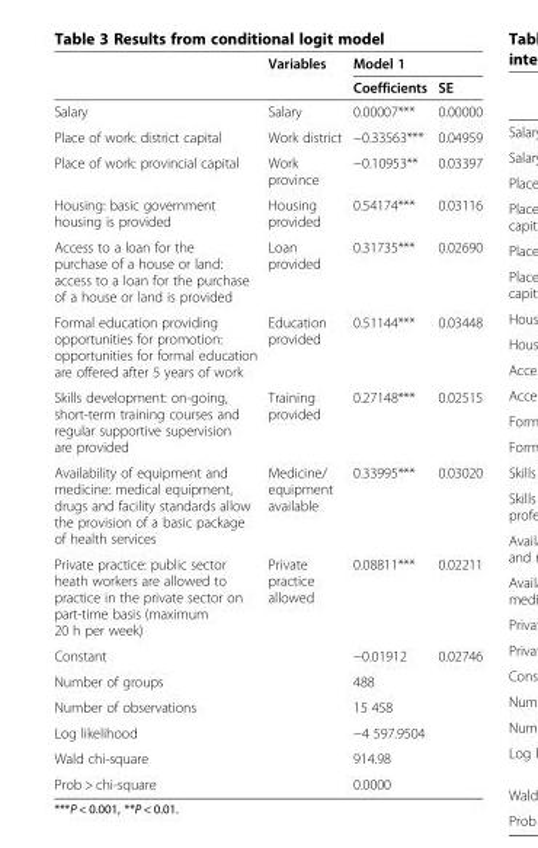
<table><thead><tr><td rowspan="2"></td><td rowspan="2">Variables</td><td colspan="2">Model 1</td></tr><tr><td>Coefficients</td><td>SE</td></tr></thead><tbody><tr><td>Salary</td><td>Salary</td><td>0.00007***</td><td>0.00000</td></tr><tr><td>Place of work: district capital</td><td>Work district</td><td>−0.33563***</td><td>0.04959</td></tr><tr><td>Place of work: provincial capital</td><td>Work province</td><td>−0.10953**</td><td>0.03397</td></tr><tr><td>Housing: basic government housing is provided</td><td>Housing provided</td><td>0.54174***</td><td>0.03116</td></tr><tr><td>Access to a loan for the purchase of a house or land: access to a loan for the purchase of a house or land is provided</td><td>Loan provided</td><td>0.31735***</td><td>0.02690</td></tr><tr><td>Formal education providing opportunities for promotion: opportunities for formal education are offered after 5 years of work</td><td>Education provided</td><td>0.51144***</td><td>0.03448</td></tr><tr><td>Skills development: on-going, short-term training courses and regular supportive supervision are provided</td><td>Training provided</td><td>0.27148***</td><td>0.02515</td></tr><tr><td>Availability of equipment and medicine: medical equipment, drugs and facility standards allow the provision of a basic package of health services</td><td>Medicine/ equipment available</td><td>0.33995***</td><td>0.03020</td></tr><tr><td>Private practice: public sector heath workers are allowed to practice in the private sector on part-time basis (maximum 20 h per week)</td><td>Private practice allowed</td><td>0.08811***</td><td>0.02211</td></tr><tr><td>Constant</td><td></td><td>−0.01912</td><td>0.02746</td></tr><tr><td>Number of groups</td><td></td><td>488</td><td></td></tr><tr><td>Number of observations</td><td></td><td>15 458</td><td></td></tr><tr><td>Log likelihood</td><td></td><td>−4 597.9504</td><td></td></tr><tr><td>Wald chi-square</td><td></td><td>914.98</td><td></td></tr><tr><td>Prob &gt; chi-square</td><td></td><td>0.0000</td><td></td></tr></tbody></table>